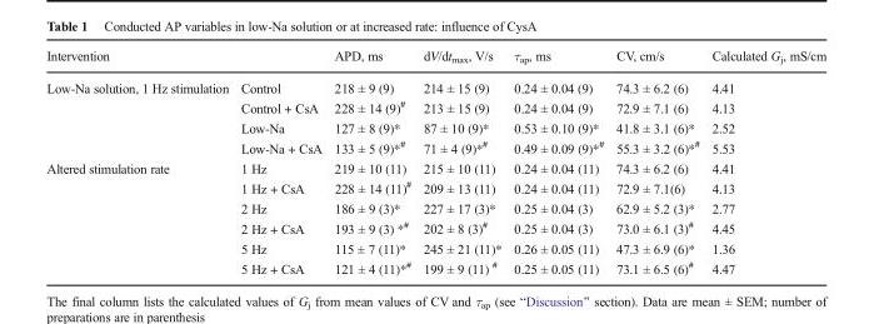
<table><thead><tr><td>Intervention</td><td></td><td>APD, ms</td><td>dV/dt<sub>max</sub>, V/s</td><td>τ<sub>ap</sub>, ms</td><td>CV, cm/s</td><td>Calculated G<sub>j</sub>, mS/cm</td></tr></thead><tbody><tr><td rowspan="4">Low-Na solution, 1 Hz stimulation</td><td>Control</td><td>218 ± 9 (9)</td><td>214 ± 15 (9)</td><td>0.24 ± 0.04 (9)</td><td>74.3 ± 6.2 (6)</td><td>4.41</td></tr><tr><td>Control + CsA</td><td>228 ± 14 (9)<sup>#</sup></td><td>213 ± 15 (9)</td><td>0.24 ± 0.04 (9)</td><td>72.9 ± 7.1 (6)</td><td>4.13</td></tr><tr><td>Low-Na</td><td>127 ± 8 (9)*</td><td>87 ± 10 (9)*</td><td>0.53 ± 0.10 (9)*</td><td>41.8 ± 3.1 (6)*</td><td>2.52</td></tr><tr><td>Low-Na + CsA</td><td>133 ± 5 (9)*<sup>#</sup></td><td>71 ± 4 (9)*<sup>#</sup></td><td>0.49 ± 0.09 (9)*<sup>#</sup></td><td>55.3 ± 3.2 (6)*<sup>#</sup></td><td>5.53</td></tr><tr><td rowspan="6">Altered stimulation rate</td><td>1 Hz</td><td>219 ± 10 (11)</td><td>215 ± 10 (11)</td><td>0.24 ± 0.04 (11)</td><td>74.3 ± 6.2 (6)</td><td>4.41</td></tr><tr><td>1 Hz + CsA</td><td>228 ± 14 (11)<sup>#</sup></td><td>209 ± 13 (11)</td><td>0.24 ± 0.04 (11)</td><td>72.9 ± 7.1(6)</td><td>4.13</td></tr><tr><td>2 Hz</td><td>186 ± 9 (3)*</td><td>227 ± 17 (3)*</td><td>0.25 ± 0.04 (3)</td><td>62.9 ± 5.2 (3)*</td><td>2.77</td></tr><tr><td>2 Hz + CsA</td><td>193 ± 9 (3) *<sup>#</sup></td><td>202 ± 8 (3)<sup>#</sup></td><td>0.25 ± 0.04 (3)</td><td>73.0 ± 6.1 (3)<sup>#</sup></td><td>4.45</td></tr><tr><td>5 Hz</td><td>115 ± 7 (11)*</td><td>245 ± 21 (11)*</td><td>0.26 ± 0.05 (11)</td><td>47.3 ± 6.9 (6)*</td><td>1.36</td></tr><tr><td>5 Hz + CsA</td><td>121 ± 4 (11)*<sup>#</sup></td><td>199 ± 9 (11) <sup>#</sup></td><td>0.25 ± 0.05 (11)</td><td>73.1 ± 6.5 (6)<sup>#</sup></td><td>4.47</td></tr></tbody></table>